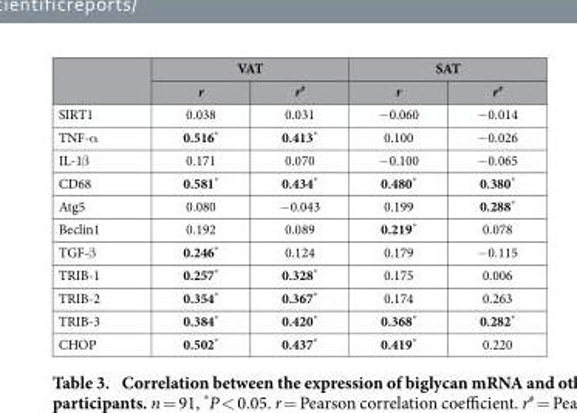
<table><thead><tr><td rowspan="2"></td><td colspan="2">VAT</td><td colspan="2">SAT</td></tr><tr><td>r</td><td>r<sup>#</sup></td><td>r</td><td>r<sup>#</sup></td></tr></thead><tbody><tr><td>SIRT1</td><td>0.038</td><td>0.031</td><td>−0.060</td><td>−0.014</td></tr><tr><td>TNF-α</td><td>0.516*</td><td>0.413*</td><td>0.100</td><td>−0.026</td></tr><tr><td>IL-1β</td><td>0.171</td><td>0.070</td><td>−0.100</td><td>−0.065</td></tr><tr><td>CD68</td><td>0.581*</td><td>0.434*</td><td>0.480*</td><td>0.380*</td></tr><tr><td>Atg5</td><td>0.080</td><td>−0.043</td><td>0.199</td><td>0.288*</td></tr><tr><td>Beclin1</td><td>0.192</td><td>0.089</td><td>0.219*</td><td>0.078</td></tr><tr><td>TGF-β</td><td>0.246*</td><td>0.124</td><td>0.179</td><td>−0.115</td></tr><tr><td>TRIB-1</td><td>0.257*</td><td>0.328*</td><td>0.175</td><td>0.006</td></tr><tr><td>TRIB-2</td><td>0.354*</td><td>0.367*</td><td>0.174</td><td>0.263</td></tr><tr><td>TRIB-3</td><td>0.384*</td><td>0.420*</td><td>0.368*</td><td>0.282*</td></tr><tr><td>CHOP</td><td>0.502*</td><td>0.437*</td><td>0.419*</td><td>0.220</td></tr></tbody></table>